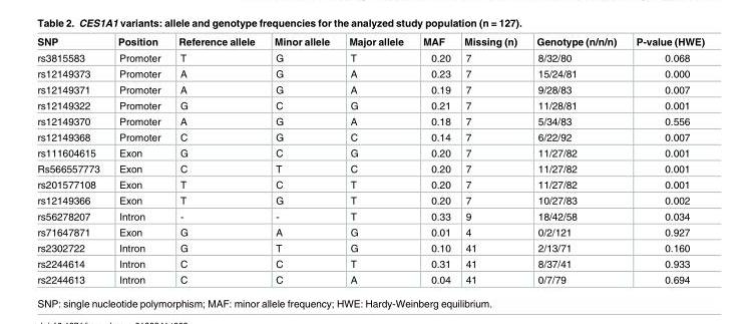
<table><thead><tr><td>SNP</td><td>Position</td><td>Reference allele</td><td>Minor allele</td><td>Major allele</td><td>MAF</td><td>Missing (n)</td><td>Genotype (n/n/n)</td><td>P-value (HWE)</td></tr></thead><tbody><tr><td>rs3815583</td><td>Promoter</td><td>T</td><td>G</td><td>T</td><td>0.20</td><td>7</td><td>8/32/80</td><td>0.068</td></tr><tr><td>rs12149373</td><td>Promoter</td><td>A</td><td>G</td><td>A</td><td>0.23</td><td>7</td><td>15/24/81</td><td>0.000</td></tr><tr><td>rs12149371</td><td>Promoter</td><td>A</td><td>G</td><td>A</td><td>0.19</td><td>7</td><td>9/28/83</td><td>0.007</td></tr><tr><td>rs12149322</td><td>Promoter</td><td>G</td><td>C</td><td>G</td><td>0.21</td><td>7</td><td>11/28/81</td><td>0.001</td></tr><tr><td>rs12149370</td><td>Promoter</td><td>A</td><td>G</td><td>A</td><td>0.18</td><td>7</td><td>5/34/83</td><td>0.556</td></tr><tr><td>rs12149368</td><td>Promoter</td><td>C</td><td>G</td><td>C</td><td>0.14</td><td>7</td><td>6/22/92</td><td>0.007</td></tr><tr><td>rs111604615</td><td>Exon</td><td>G</td><td>C</td><td>G</td><td>0.20</td><td>7</td><td>11/27/82</td><td>0.001</td></tr><tr><td>Rs566557773</td><td>Exon</td><td>C</td><td>T</td><td>C</td><td>0.20</td><td>7</td><td>11/27/82</td><td>0.001</td></tr><tr><td>rs201577108</td><td>Exon</td><td>T</td><td>C</td><td>T</td><td>0.20</td><td>7</td><td>11/27/82</td><td>0.001</td></tr><tr><td>rs12149366</td><td>Exon</td><td>T</td><td>G</td><td>T</td><td>0.20</td><td>7</td><td>10/27/83</td><td>0.002</td></tr><tr><td>rs56278207</td><td>Intron</td><td>-</td><td>-</td><td>T</td><td>0.33</td><td>9</td><td>18/42/58</td><td>0.034</td></tr><tr><td>rs71647871</td><td>Exon</td><td>G</td><td>A</td><td>G</td><td>0.01</td><td>4</td><td>0/2/121</td><td>0.927</td></tr><tr><td>rs2302722</td><td>Intron</td><td>G</td><td>T</td><td>G</td><td>0.10</td><td>41</td><td>2/13/71</td><td>0.160</td></tr><tr><td>rs2244614</td><td>Intron</td><td>C</td><td>C</td><td>T</td><td>0.31</td><td>41</td><td>8/37/41</td><td>0.933</td></tr><tr><td>rs2244613</td><td>Intron</td><td>C</td><td>C</td><td>A</td><td>0.04</td><td>41</td><td>0/7/79</td><td>0.694</td></tr></tbody></table>